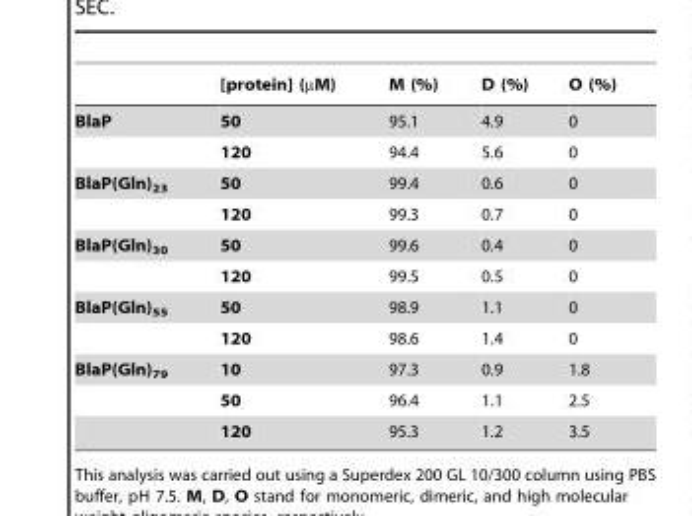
<table><thead><tr><td></td><td>[protein] (µM)</td><td>M (%)</td><td>D (%)</td><td>O (%)</td></tr></thead><tbody><tr><td rowspan="2">BlaP</td><td>50</td><td>95.1</td><td>4.9</td><td>0</td></tr><tr><td>120</td><td>94.4</td><td>5.6</td><td>0</td></tr><tr><td rowspan="2">BlaP(Gln)<sub>23</sub></td><td>50</td><td>99.4</td><td>0.6</td><td>0</td></tr><tr><td>120</td><td>99.3</td><td>0.7</td><td>0</td></tr><tr><td rowspan="2">BlaP(Gln)<sub>30</sub></td><td>50</td><td>99.6</td><td>0.4</td><td>0</td></tr><tr><td>120</td><td>99.5</td><td>0.5</td><td>0</td></tr><tr><td rowspan="2">BlaP(Gln)<sub>55</sub></td><td>50</td><td>98.9</td><td>1.1</td><td>0</td></tr><tr><td>120</td><td>98.6</td><td>1.4</td><td>0</td></tr><tr><td rowspan="3">BlaP(Gln)<sub>79</sub></td><td>10</td><td>97.3</td><td>0.9</td><td>1.8</td></tr><tr><td>50</td><td>96.4</td><td>1.1</td><td>2.5</td></tr><tr><td>120</td><td>95.3</td><td>1.2</td><td>3.5</td></tr></tbody></table>